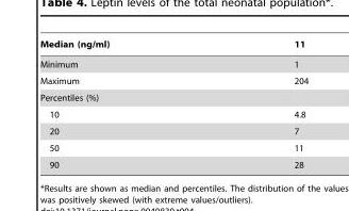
<table><thead><tr><td>Median (ng/ml)</td><td>11</td></tr></thead><tbody><tr><td>Minimum</td><td>1</td></tr><tr><td>Maximum</td><td>204</td></tr><tr><td colspan="2">Percentiles (%)</td></tr><tr><td>10</td><td>4.8</td></tr><tr><td>20</td><td>7</td></tr><tr><td>50</td><td>11</td></tr><tr><td>90</td><td>28</td></tr></tbody></table>